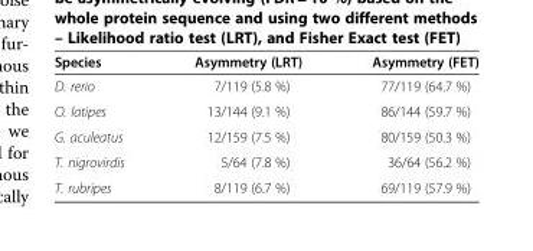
<table><thead><tr><td>Species</td><td>Asymmetry (LRT)</td><td>Asymmetry (FET)</td></tr></thead><tbody><tr><td>D. rerio</td><td>7/119 (5.8 %)</td><td>77/119 (64.7 %)</td></tr><tr><td>O. latipes</td><td>13/144 (9.1 %)</td><td>86/144 (59.7 %)</td></tr><tr><td>G. aculeatus</td><td>12/159 (7.5 %)</td><td>80/159 (50.3 %)</td></tr><tr><td>T. nigrovirdis</td><td>5/64 (7.8 %)</td><td>36/64 (56.2 %)</td></tr><tr><td>T. rubripes</td><td>8/119 (6.7 %)</td><td>69/119 (57.9 %)</td></tr></tbody></table>